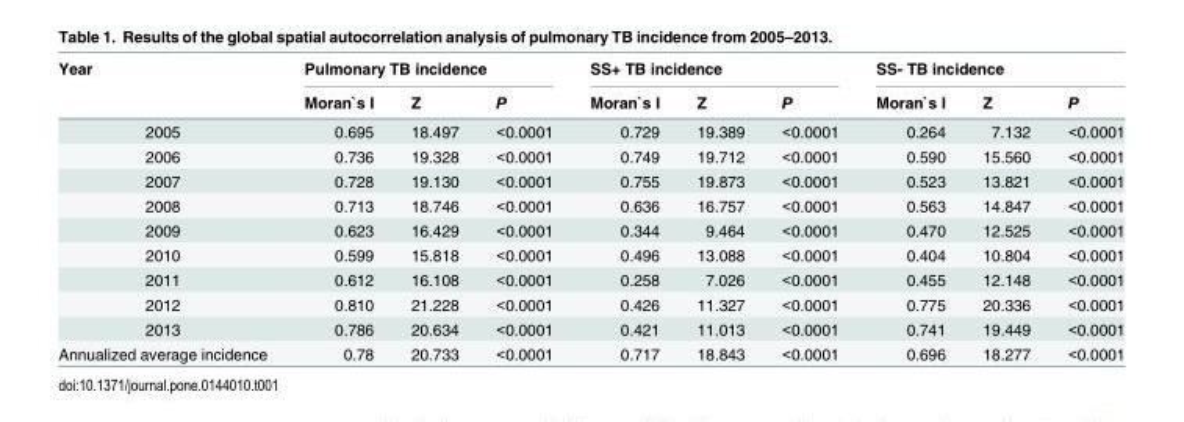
<table><thead><tr><td rowspan="2">Year</td><td colspan="3">Pulmonary TB incidence</td><td colspan="3">SS+ TB incidence</td><td colspan="3">SS- TB incidence</td></tr><tr><td>Moran`s I</td><td>Z</td><td>P</td><td>Moran`s I</td><td>Z</td><td>P</td><td>Moran`s I</td><td>Z</td><td>P</td></tr></thead><tbody><tr><td>2005</td><td>0.695</td><td>18.497</td><td>&lt;0.0001</td><td>0.729</td><td>19.389</td><td>&lt;0.0001</td><td>0.264</td><td>7.132</td><td>&lt;0.0001</td></tr><tr><td>2006</td><td>0.736</td><td>19.328</td><td>&lt;0.0001</td><td>0.749</td><td>19.712</td><td>&lt;0.0001</td><td>0.590</td><td>15.560</td><td>&lt;0.0001</td></tr><tr><td>2007</td><td>0.728</td><td>19.130</td><td>&lt;0.0001</td><td>0.755</td><td>19.873</td><td>&lt;0.0001</td><td>0.523</td><td>13.821</td><td>&lt;0.0001</td></tr><tr><td>2008</td><td>0.713</td><td>18.746</td><td>&lt;0.0001</td><td>0.636</td><td>16.757</td><td>&lt;0.0001</td><td>0.563</td><td>14.847</td><td>&lt;0.0001</td></tr><tr><td>2009</td><td>0.623</td><td>16.429</td><td>&lt;0.0001</td><td>0.344</td><td>9.464</td><td>&lt;0.0001</td><td>0.470</td><td>12.525</td><td>&lt;0.0001</td></tr><tr><td>2010</td><td>0.599</td><td>15.818</td><td>&lt;0.0001</td><td>0.496</td><td>13.088</td><td>&lt;0.0001</td><td>0.404</td><td>10.804</td><td>&lt;0.0001</td></tr><tr><td>2011</td><td>0.612</td><td>16.108</td><td>&lt;0.0001</td><td>0.258</td><td>7.026</td><td>&lt;0.0001</td><td>0.455</td><td>12.148</td><td>&lt;0.0001</td></tr><tr><td>2012</td><td>0.810</td><td>21.228</td><td>&lt;0.0001</td><td>0.426</td><td>11.327</td><td>&lt;0.0001</td><td>0.775</td><td>20.336</td><td>&lt;0.0001</td></tr><tr><td>2013</td><td>0.786</td><td>20.634</td><td>&lt;0.0001</td><td>0.421</td><td>11.013</td><td>&lt;0.0001</td><td>0.741</td><td>19.449</td><td>&lt;0.0001</td></tr><tr><td>Annualized average incidence</td><td>0.78</td><td>20.733</td><td>&lt;0.0001</td><td>0.717</td><td>18.843</td><td>&lt;0.0001</td><td>0.696</td><td>18.277</td><td>&lt;0.0001</td></tr></tbody></table>